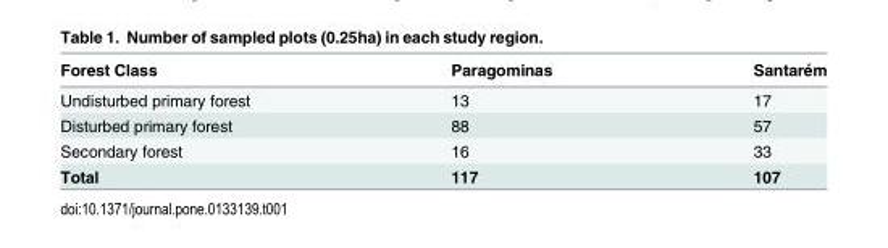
<table><thead><tr><td>Forest Class</td><td>Paragominas</td><td>Santarém</td></tr></thead><tbody><tr><td>Undisturbed primary forest</td><td>13</td><td>17</td></tr><tr><td>Disturbed primary forest</td><td>88</td><td>57</td></tr><tr><td>Secondary forest</td><td>16</td><td>33</td></tr><tr><td>Total</td><td>117</td><td>107</td></tr></tbody></table>